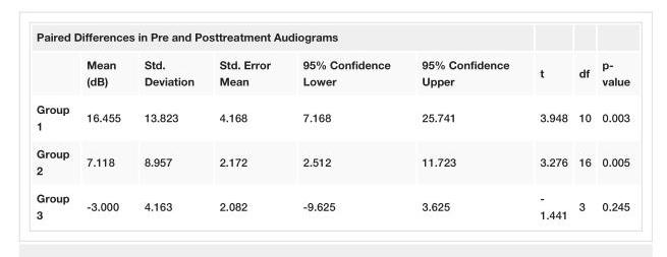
<table><tbody><tr><td colspan="9">Paired Differences in Pre and Posttreatment Audiograms</td></tr><tr><td></td><td>Mean (dB)</td><td>Std. Deviation</td><td>Std. Error Mean</td><td>95% Confidence Lower</td><td>95% Confidence Upper</td><td>t</td><td>df</td><td>p- value</td></tr><tr><td>Group 1</td><td>16.455</td><td>13.823</td><td>4.168</td><td>7.168</td><td>25.741</td><td>3.948</td><td>10</td><td>0.003</td></tr><tr><td>Group 2</td><td>7.118</td><td>8.957</td><td>2.172</td><td>2.512</td><td>11.723</td><td>3.276</td><td>16</td><td>0.005</td></tr><tr><td>Group 3</td><td>-3.000</td><td>4.163</td><td>2.082</td><td>-9.625</td><td>3.625</td><td>- 1.441</td><td>3</td><td>0.245</td></tr></tbody></table>